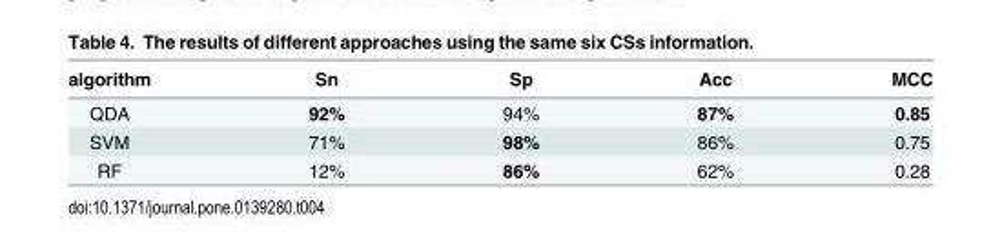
<table><thead><tr><td>algorithm</td><td>Sn</td><td>Sp</td><td>Acc</td><td>MCC</td></tr></thead><tbody><tr><td>QDA</td><td>92%</td><td>94%</td><td>87%</td><td>0.85</td></tr><tr><td>SVM</td><td>71%</td><td>98%</td><td>86%</td><td>0.75</td></tr><tr><td>RF</td><td>12%</td><td>86%</td><td>62%</td><td>0.28</td></tr></tbody></table>